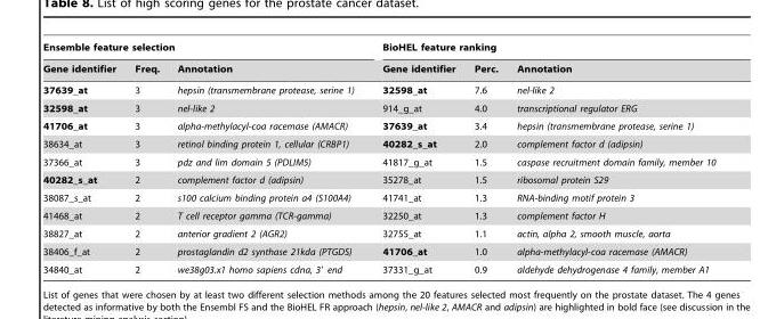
<table><thead><tr><td colspan="3">Ensemble feature selection</td><td colspan="3">BioHEL feature ranking</td></tr><tr><td>Gene identifier</td><td>Freq.</td><td>Annotation</td><td>Gene identifier</td><td>Perc.</td><td>Annotation</td></tr></thead><tbody><tr><td>37639_at</td><td>3</td><td>hepsin (transmembrane protease, serine 1)</td><td>32598_at</td><td>7.6</td><td>nel-like 2</td></tr><tr><td>32598_at</td><td>3</td><td>nel-like 2</td><td>914_g_at</td><td>4.0</td><td>transcriptional regulator ERG</td></tr><tr><td>41706_at</td><td>3</td><td>alpha-methylacyl-coa racemase (AMACR)</td><td>37639_at</td><td>3.4</td><td>hepsin (transmembrane protease, serine 1)</td></tr><tr><td>38634_at</td><td>3</td><td>retinol binding protein 1, cellular (CRBP1)</td><td>40282_s_at</td><td>2.0</td><td>complement factor d (adipsin)</td></tr><tr><td>37366_at</td><td>3</td><td>pdz and lim domain 5 (PDLIM5)</td><td>41817_g_at</td><td>1.5</td><td>caspase recruitment domain family, member 10</td></tr><tr><td>40282_s_at</td><td>2</td><td>complement factor d (adipsin)</td><td>35278_at</td><td>1.5</td><td>ribosomal protein S29</td></tr><tr><td>38087_s_at</td><td>2</td><td>s100 calcium binding protein a4 (S100A4)</td><td>41741_at</td><td>1.3</td><td>RNA-binding motif protein 3</td></tr><tr><td>41468_at</td><td>2</td><td>T cell receptor gamma (TCR-gamma)</td><td>32250_at</td><td>1.3</td><td>complement factor H</td></tr><tr><td>38827_at</td><td>2</td><td>anterior gradient 2 (AGR2)</td><td>32755_at</td><td>1.1</td><td>actin, alpha 2, smooth muscle, aorta</td></tr><tr><td>38406_f_at</td><td>2</td><td>prostaglandin d2 synthase 21kda (PTGDS)</td><td>41706_at</td><td>1.0</td><td>alpha-methylacyl-coa racemase (AMACR)</td></tr><tr><td>34840_at</td><td>2</td><td>we38g03.x1 homo sapiens cdna, 3′ end</td><td>37331_g_at</td><td>0.9</td><td>aldehyde dehydrogenase 4 family, member A1</td></tr></tbody></table>